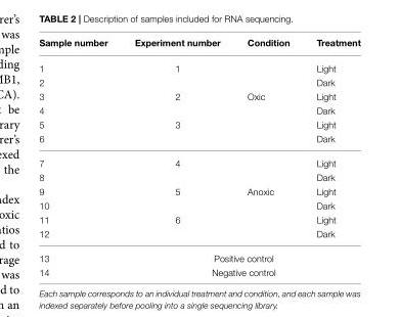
<table><thead><tr><td>Sample number</td><td>Experiment number</td><td>Condition</td><td>Treatment</td></tr></thead><tbody><tr><td>1</td><td>1</td><td></td><td>Light</td></tr><tr><td>2</td><td></td><td></td><td>Dark</td></tr><tr><td>3</td><td>2</td><td>Oxic</td><td>Light</td></tr><tr><td>4</td><td></td><td></td><td>Dark</td></tr><tr><td>5</td><td>3</td><td></td><td>Light</td></tr><tr><td>6</td><td></td><td></td><td>Dark</td></tr><tr><td>7</td><td>4</td><td></td><td>Light</td></tr><tr><td>8</td><td></td><td></td><td>Dark</td></tr><tr><td>9</td><td>5</td><td>Anoxic</td><td>Light</td></tr><tr><td>10</td><td></td><td></td><td>Dark</td></tr><tr><td>11</td><td>6</td><td></td><td>Light</td></tr><tr><td>12</td><td></td><td></td><td>Dark</td></tr><tr><td>13</td><td colspan="3">Positive control</td></tr><tr><td>14</td><td colspan="3">Negative control</td></tr></tbody></table>